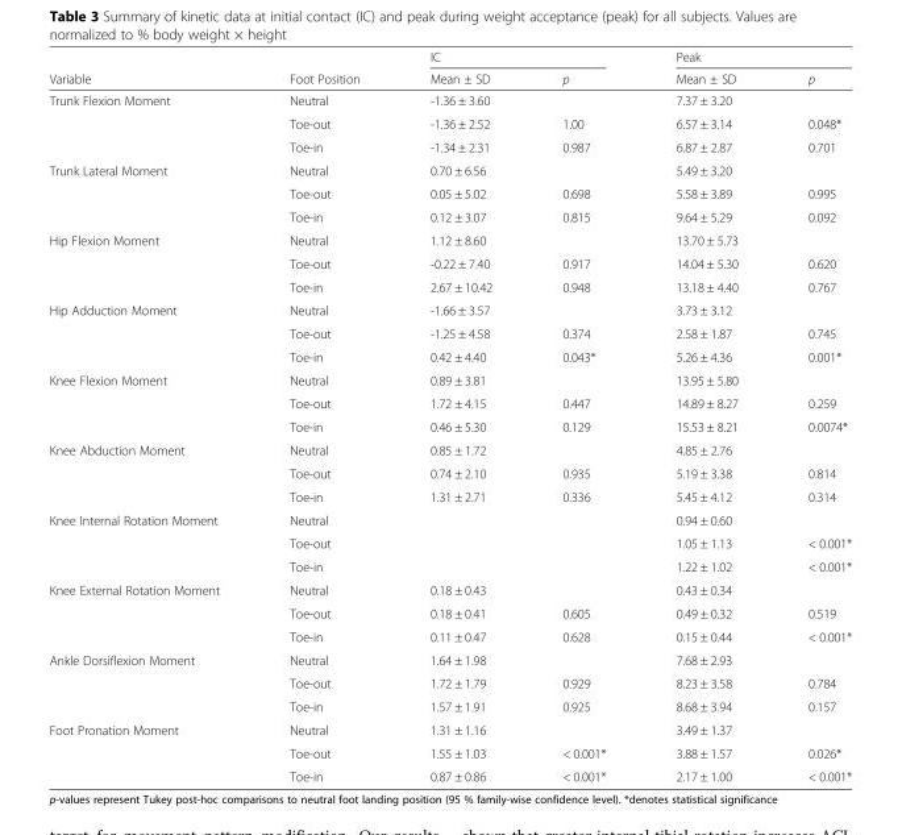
<table><thead><tr><td rowspan="2">Variable</td><td rowspan="2">Foot Position</td><td colspan="2">IC</td><td colspan="2">Peak</td></tr><tr><td>Mean ± SD</td><td>p</td><td>Mean ± SD</td><td>p</td></tr></thead><tbody><tr><td rowspan="3">Trunk Flexion Moment</td><td>Neutral</td><td>-1.36 ± 3.60</td><td></td><td>7.37 ± 3.20</td><td></td></tr><tr><td>Toe-out</td><td>-1.36 ± 2.52</td><td>1.00</td><td>6.57 ± 3.14</td><td>0.048*</td></tr><tr><td>Toe-in</td><td>-1.34 ± 2.31</td><td>0.987</td><td>6.87 ± 2.87</td><td>0.701</td></tr><tr><td rowspan="3">Trunk Lateral Moment</td><td>Neutral</td><td>0.70 ± 6.56</td><td></td><td>5.49 ± 3.20</td><td></td></tr><tr><td>Toe-out</td><td>0.05 ± 5.02</td><td>0.698</td><td>5.58 ± 3.89</td><td>0.995</td></tr><tr><td>Toe-in</td><td>0.12 ± 3.07</td><td>0.815</td><td>9.64 ± 5.29</td><td>0.092</td></tr><tr><td rowspan="3">Hip Flexion Moment</td><td>Neutral</td><td>1.12 ± 8.60</td><td></td><td>13.70 ± 5.73</td><td></td></tr><tr><td>Toe-out</td><td>-0.22 ± 7.40</td><td>0.917</td><td>14.04 ± 5.30</td><td>0.620</td></tr><tr><td>Toe-in</td><td>2.67 ± 10.42</td><td>0.948</td><td>13.18 ± 4.40</td><td>0.767</td></tr><tr><td rowspan="3">Hip Adduction Moment</td><td>Neutral</td><td>-1.66 ± 3.57</td><td></td><td>3.73 ± 3.12</td><td></td></tr><tr><td>Toe-out</td><td>-1.25 ± 4.58</td><td>0.374</td><td>2.58 ± 1.87</td><td>0.745</td></tr><tr><td>Toe-in</td><td>0.42 ± 4.40</td><td>0.043*</td><td>5.26 ± 4.36</td><td>0.001*</td></tr><tr><td rowspan="3">Knee Flexion Moment</td><td>Neutral</td><td>0.89 ± 3.81</td><td></td><td>13.95 ± 5.80</td><td></td></tr><tr><td>Toe-out</td><td>1.72 ± 4.15</td><td>0.447</td><td>14.89 ± 8.27</td><td>0.259</td></tr><tr><td>Toe-in</td><td>0.46 ± 5.30</td><td>0.129</td><td>15.53 ± 8.21</td><td>0.0074*</td></tr><tr><td rowspan="3">Knee Abduction Moment</td><td>Neutral</td><td>0.85 ± 1.72</td><td></td><td>4.85 ± 2.76</td><td></td></tr><tr><td>Toe-out</td><td>0.74 ± 2.10</td><td>0.935</td><td>5.19 ± 3.38</td><td>0.814</td></tr><tr><td>Toe-in</td><td>1.31 ± 2.71</td><td>0.336</td><td>5.45 ± 4.12</td><td>0.314</td></tr><tr><td rowspan="3">Knee Internal Rotation Moment</td><td>Neutral</td><td></td><td></td><td>0.94 ± 0.60</td><td></td></tr><tr><td>Toe-out</td><td></td><td></td><td>1.05 ± 1.13</td><td>&lt; 0.001*</td></tr><tr><td>Toe-in</td><td></td><td></td><td>1.22 ± 1.02</td><td>&lt; 0.001*</td></tr><tr><td rowspan="3">Knee External Rotation Moment</td><td>Neutral</td><td>0.18 ± 0.43</td><td></td><td>0.43 ± 0.34</td><td></td></tr><tr><td>Toe-out</td><td>0.18 ± 0.41</td><td>0.605</td><td>0.49 ± 0.32</td><td>0.519</td></tr><tr><td>Toe-in</td><td>0.11 ± 0.47</td><td>0.628</td><td>0.15 ± 0.44</td><td>&lt; 0.001*</td></tr><tr><td rowspan="3">Ankle Dorsiflexion Moment</td><td>Neutral</td><td>1.64 ± 1.98</td><td></td><td>7.68 ± 2.93</td><td></td></tr><tr><td>Toe-out</td><td>1.72 ± 1.79</td><td>0.929</td><td>8.23 ± 3.58</td><td>0.784</td></tr><tr><td>Toe-in</td><td>1.57 ± 1.91</td><td>0.925</td><td>8.68 ± 3.94</td><td>0.157</td></tr><tr><td rowspan="3">Foot Pronation Moment</td><td>Neutral</td><td>1.31 ± 1.16</td><td></td><td>3.49 ± 1.37</td><td></td></tr><tr><td>Toe-out</td><td>1.55 ± 1.03</td><td>&lt; 0.001*</td><td>3.88 ± 1.57</td><td>0.026*</td></tr><tr><td>Toe-in</td><td>0.87 ± 0.86</td><td>&lt; 0.001*</td><td>2.17 ± 1.00</td><td>&lt; 0.001*</td></tr></tbody></table>